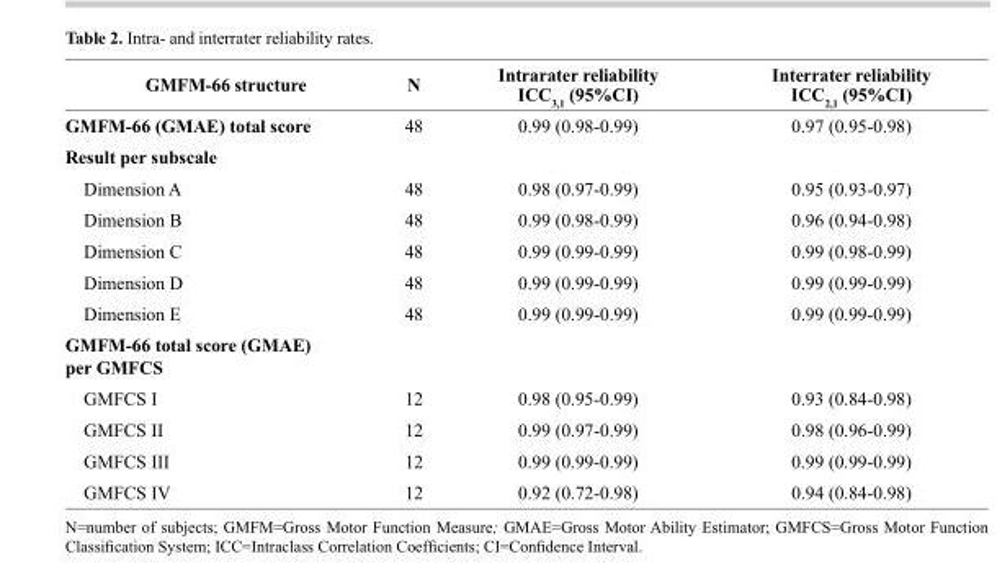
<table><thead><tr><td>GMFM-66 structure</td><td>N</td><td>Intrarater reliability ICC<sub>3,1</sub> (95%CI)</td><td>Interrater reliability ICC<sub>2,1</sub> (95%CI)</td></tr></thead><tbody><tr><td>GMFM-66 (GMAE) total score</td><td>48</td><td>0.99 (0.98-0.99)</td><td>0.97 (0.95-0.98)</td></tr><tr><td colspan="4">Result per subscale</td></tr><tr><td>Dimension A</td><td>48</td><td>0.98 (0.97-0.99)</td><td>0.95 (0.93-0.97)</td></tr><tr><td>Dimension B</td><td>48</td><td>0.99 (0.98-0.99)</td><td>0.96 (0.94-0.98)</td></tr><tr><td>Dimension C</td><td>48</td><td>0.99 (0.99-0.99)</td><td>0.99 (0.98-0.99)</td></tr><tr><td>Dimension D</td><td>48</td><td>0.99 (0.99-0.99)</td><td>0.99 (0.99-0.99)</td></tr><tr><td>Dimension E</td><td>48</td><td>0.99 (0.99-0.99)</td><td>0.99 (0.99-0.99)</td></tr><tr><td colspan="4">GMFM-66 total score (GMAE) per GMFCS</td></tr><tr><td>GMFCS I</td><td>12</td><td>0.98 (0.95-0.99)</td><td>0.93 (0.84-0.98)</td></tr><tr><td>GMFCS II</td><td>12</td><td>0.99 (0.97-0.99)</td><td>0.98 (0.96-0.99)</td></tr><tr><td>GMFCS III</td><td>12</td><td>0.99 (0.99-0.99)</td><td>0.99 (0.99-0.99)</td></tr><tr><td>GMFCS IV</td><td>12</td><td>0.92 (0.72-0.98)</td><td>0.94 (0.84-0.98)</td></tr></tbody></table>